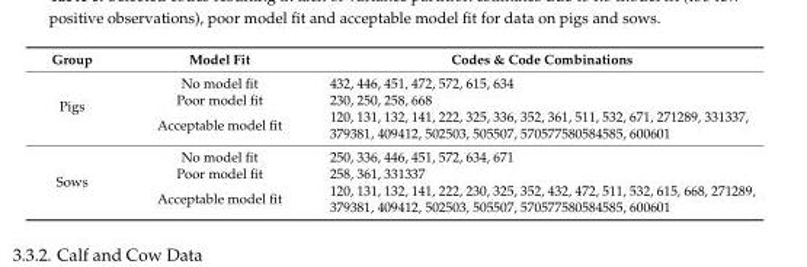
<table><thead><tr><td>Group</td><td>Model Fit</td><td>Codes &amp; Code Combinations</td></tr></thead><tbody><tr><td rowspan="3">Pigs</td><td>No model fit</td><td>432, 446, 451, 472, 572, 615, 634</td></tr><tr><td>Poor model fit</td><td>230, 250, 258, 668</td></tr><tr><td>Acceptable model fit</td><td>120, 131, 132, 141, 222, 325, 336, 352, 361, 511, 532, 671, 271289, 331337, 379381, 409412, 502503, 505507, 570577580584585, 600601</td></tr><tr><td rowspan="3">Sows</td><td>No model fit</td><td>250, 336, 446, 451, 572, 634, 671</td></tr><tr><td>Poor model fit</td><td>258, 361, 331337</td></tr><tr><td>Acceptable model fit</td><td>120, 131, 132, 141, 222, 230, 325, 352, 432, 472, 511, 532, 615, 668, 271289, 379381, 409412, 502503, 505507, 570577580584585, 600601</td></tr></tbody></table>